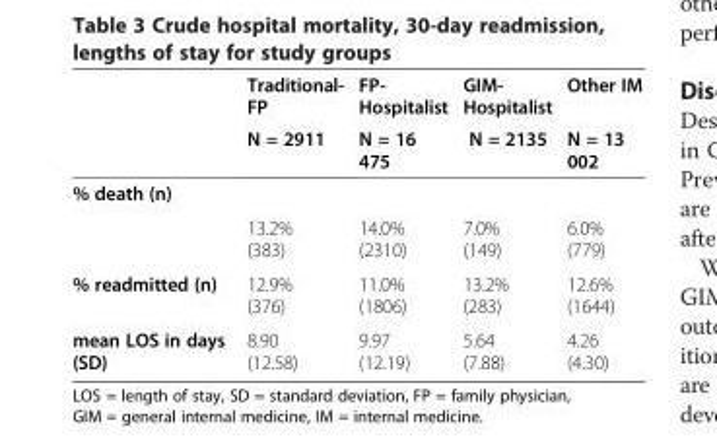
<table><thead><tr><td rowspan="2"></td><td rowspan="2">Traditional- FP N = 2911</td><td rowspan="2">FP- Hospitalist N = 16 475</td><td rowspan="2">GIM- Hospitalist N = 2135</td><td rowspan="2">Other IM N = 13 002</td></tr><tr></tr></thead><tbody><tr><td colspan="5">% death (n)</td></tr><tr><td></td><td>13.2% (383)</td><td>14.0% (2310)</td><td>7.0% (149)</td><td>6.0% (779)</td></tr><tr><td>% readmitted (n)</td><td>12.9% (376)</td><td>11.0% (1806)</td><td>13.2% (283)</td><td>12.6% (1644)</td></tr><tr><td>mean LOS in days (SD)</td><td>8.90 (12.58)</td><td>9.97 (12.19)</td><td>5.64 (7.88)</td><td>4.26 (4.30)</td></tr></tbody></table>